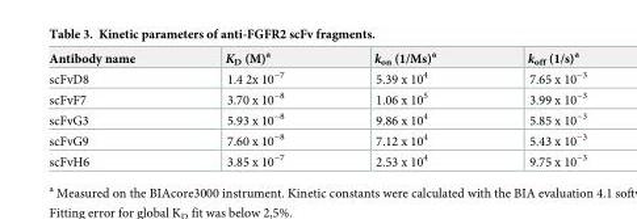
<table><thead><tr><td>Antibody name</td><td>K<sub>D</sub> (M)<sup>a</sup></td><td>k<sub>on</sub> (1/Ms)<sup>a</sup></td><td>k<sub>off</sub> (1/s)<sup>a</sup></td></tr></thead><tbody><tr><td>scFvD8</td><td>1.4 2x 10<sup>−7</sup></td><td>5.39 x 10<sup>4</sup></td><td>7.65 x 10<sup>−3</sup></td></tr><tr><td>scFvF7</td><td>3.70 x 10<sup>−8</sup></td><td>1.06 x 10<sup>5</sup></td><td>3.99 x 10<sup>−3</sup></td></tr><tr><td>scFvG3</td><td>5.93 x 10<sup>−8</sup></td><td>9.86 x 10<sup>4</sup></td><td>5.85 x 10<sup>−3</sup></td></tr><tr><td>scFvG9</td><td>7.60 x 10<sup>−8</sup></td><td>7.12 x 10<sup>4</sup></td><td>5.43 x 10<sup>−3</sup></td></tr><tr><td>scFvH6</td><td>3.85 x 10<sup>−7</sup></td><td>2.53 x 10<sup>4</sup></td><td>9.75 x 10<sup>−3</sup></td></tr></tbody></table>